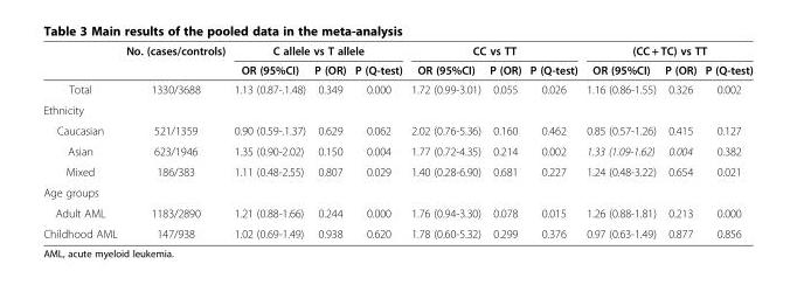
<table><thead><tr><td rowspan="2"></td><td rowspan="2">No. (cases/controls)</td><td colspan="3">C allele vs T allele</td><td colspan="3">CC vs TT</td><td colspan="3">(CC + TC) vs TT</td></tr><tr><td>OR (95%CI)</td><td>P (OR)</td><td>P (Q-test)</td><td>OR (95%CI)</td><td>P (OR)</td><td>P (Q-test)</td><td>OR (95%CI)</td><td>P (OR)</td><td>P (Q-test)</td></tr></thead><tbody><tr><td>Total</td><td>1330/3688</td><td>1.13 (0.87-.1.48)</td><td>0.349</td><td>0.000</td><td>1.72 (0.99-3.01)</td><td>0.055</td><td>0.026</td><td>1.16 (0.86-1.55)</td><td>0.326</td><td>0.002</td></tr><tr><td colspan="11">Ethnicity</td></tr><tr><td>Caucasian</td><td>521/1359</td><td>0.90 (0.59-.1.37)</td><td>0.629</td><td>0.062</td><td>2.02 (0.76-5.36)</td><td>0.160</td><td>0.462</td><td>0.85 (0.57-1.26)</td><td>0.415</td><td>0.127</td></tr><tr><td>Asian</td><td>623/1946</td><td>1.35 (0.90-2.02)</td><td>0.150</td><td>0.004</td><td>1.77 (0.72-4.35)</td><td>0.214</td><td>0.002</td><td>1.33 (1.09-1.62)</td><td>0.004</td><td>0.382</td></tr><tr><td>Mixed</td><td>186/383</td><td>1.11 (0.48-2.55)</td><td>0.807</td><td>0.029</td><td>1.40 (0.28-6.90)</td><td>0.681</td><td>0.227</td><td>1.24 (0.48-3.22)</td><td>0.654</td><td>0.021</td></tr><tr><td colspan="11">Age groups</td></tr><tr><td>Adult AML</td><td>1183/2890</td><td>1.21 (0.88-1.66)</td><td>0.244</td><td>0.000</td><td>1.76 (0.94-3.30)</td><td>0.078</td><td>0.015</td><td>1.26 (0.88-1.81)</td><td>0.213</td><td>0.000</td></tr><tr><td>Childhood AML</td><td>147/938</td><td>1.02 (0.69-1.49)</td><td>0.938</td><td>0.620</td><td>1.78 (0.60-5.32)</td><td>0.299</td><td>0.376</td><td>0.97 (0.63-1.49)</td><td>0.877</td><td>0.856</td></tr></tbody></table>